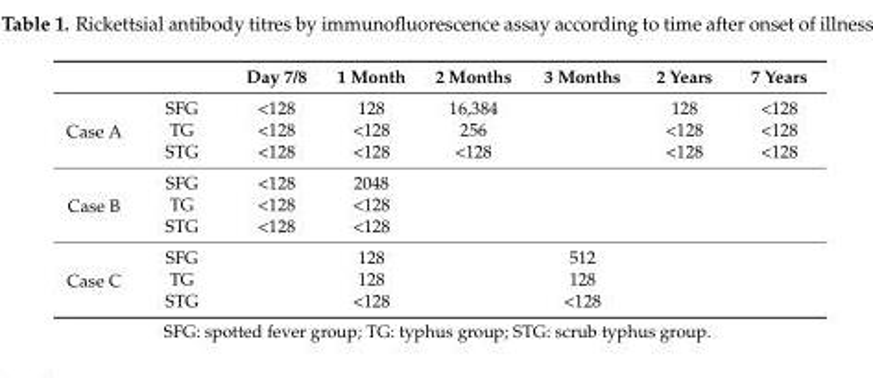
<table><thead><tr><td></td><td></td><td>Day 7/8</td><td>1 Month</td><td>2 Months</td><td>3 Months</td><td>2 Years</td><td>7 Years</td></tr></thead><tbody><tr><td rowspan="3">Case A</td><td>SFG</td><td>&lt;128</td><td>128</td><td>16,384</td><td></td><td>128</td><td>&lt;128</td></tr><tr><td>TG</td><td>&lt;128</td><td>&lt;128</td><td>256</td><td></td><td>&lt;128</td><td>&lt;128</td></tr><tr><td>STG</td><td>&lt;128</td><td>&lt;128</td><td>&lt;128</td><td></td><td>&lt;128</td><td>&lt;128</td></tr><tr><td rowspan="3">Case B</td><td>SFG</td><td>&lt;128</td><td>2048</td><td></td><td></td><td></td><td></td></tr><tr><td>TG</td><td>&lt;128</td><td>&lt;128</td><td></td><td></td><td></td><td></td></tr><tr><td>STG</td><td>&lt;128</td><td>&lt;128</td><td></td><td></td><td></td><td></td></tr><tr><td rowspan="3">Case C</td><td>SFG</td><td></td><td>128</td><td></td><td>512</td><td></td><td></td></tr><tr><td>TG</td><td></td><td>128</td><td></td><td>128</td><td></td><td></td></tr><tr><td>STG</td><td></td><td>&lt;128</td><td></td><td>&lt;128</td><td></td><td></td></tr></tbody></table>